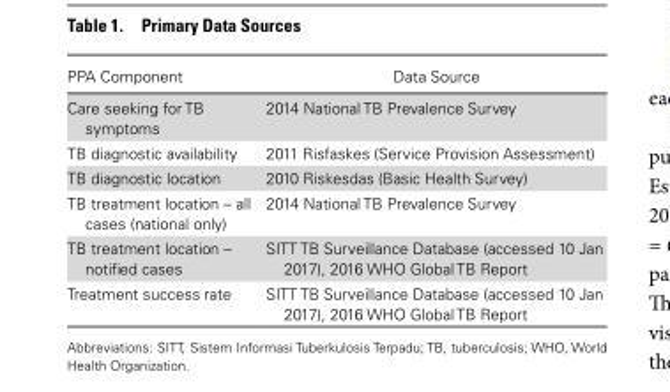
<table><thead><tr><td>PPA Component</td><td>Data Source</td></tr></thead><tbody><tr><td>Care seeking for TB symptoms</td><td>2014 National TB Prevalence Survey</td></tr><tr><td>TB diagnostic availability</td><td>2011 Risfaskes (Service Provision Assessment)</td></tr><tr><td>TB diagnostic location</td><td>2010 Riskesdas (Basic Health Survey)</td></tr><tr><td>TB treatment location – all cases (national only)</td><td>2014 National TB Prevalence Survey</td></tr><tr><td>TB treatment location – notified cases</td><td>SITT TB Surveillance Database (accessed 10 Jan 2017), 2016 WHO Global TB Report</td></tr><tr><td>Treatment success rate</td><td>SITT TB Surveillance Database (accessed 10 Jan 2017), 2016 WHO Global TB Report</td></tr></tbody></table>